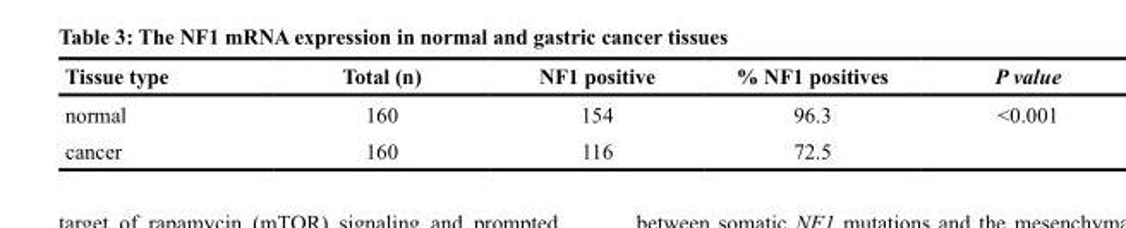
<table><thead><tr><td>Tissue type</td><td>Total (n)</td><td>NF1 positive</td><td>% NF1 positives</td><td>P value</td></tr></thead><tbody><tr><td>normal</td><td>160</td><td>154</td><td>96.3</td><td>&lt;0.001</td></tr><tr><td>cancer</td><td>160</td><td>116</td><td>72.5</td><td></td></tr></tbody></table>